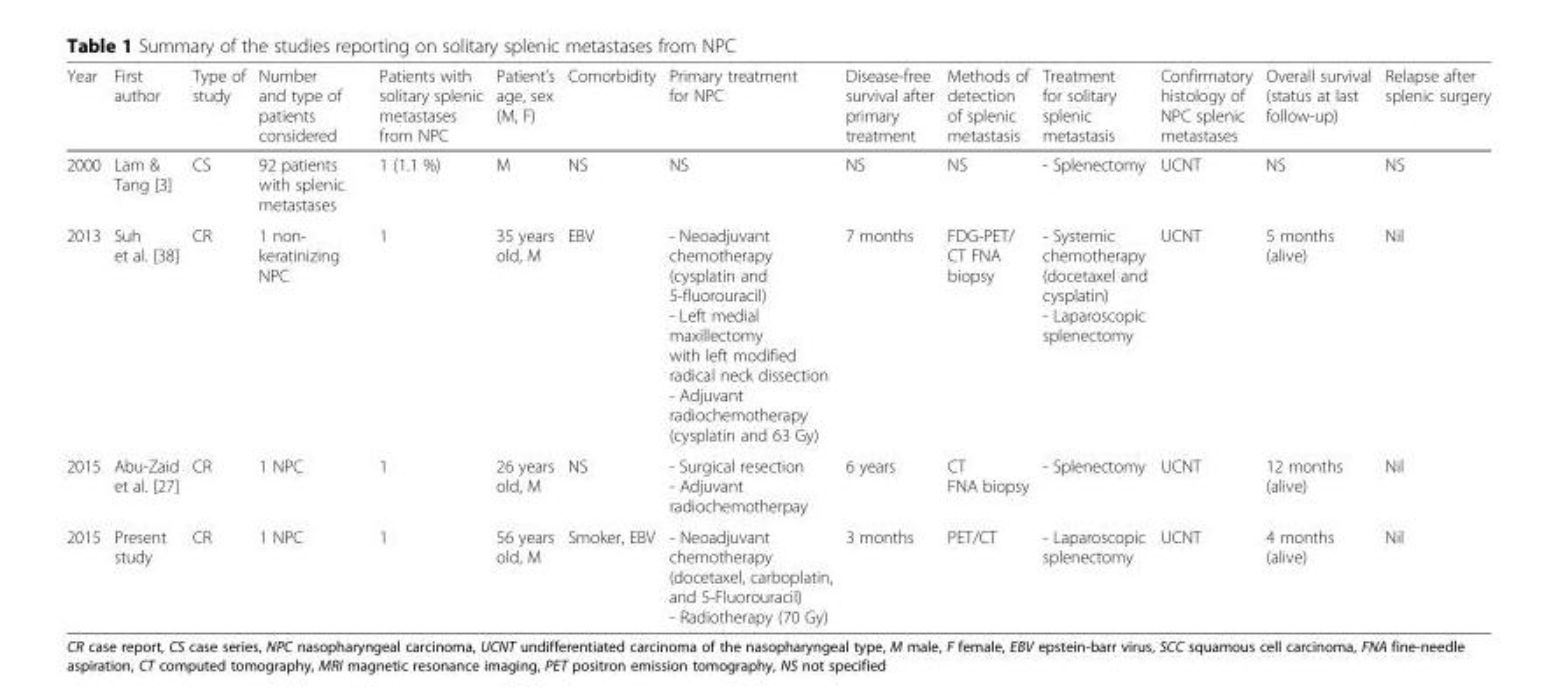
<table><thead><tr><td>Year</td><td>First author</td><td>Type of study</td><td>Number and type of patients considered</td><td>Patients with solitary splenic metastases from NPC</td><td>Patient’s age, sex (M, F)</td><td>Comorbidity</td><td>Primary treatment for NPC</td><td>Disease-free survival after primary treatment</td><td>Methods of detection of splenic metastasis</td><td>Treatment for solitary splenic metastasis</td><td>Confirmatory histology of NPC splenic metastases</td><td>Overall survival (status at last follow-up)</td><td>Relapse after splenic surgery</td></tr></thead><tbody><tr><td>2000</td><td>Lam &amp; Tang [3]</td><td>CS</td><td>92 patients with splenic metastases</td><td>1 (1.1 %)</td><td>M</td><td>NS</td><td>NS</td><td>NS</td><td>NS</td><td>- Splenectomy</td><td>UCNT</td><td>NS</td><td>NS</td></tr><tr><td>2013</td><td>Suh et al. [38]</td><td>CR</td><td>1 non- keratinizing NPC</td><td>1</td><td>35 years old, M</td><td>EBV</td><td>- Neoadjuvant chemotherapy (cysplatin and 5-fluorouracil) - Left medial maxillectomy with left modified radical neck dissection - Adjuvant radiochemotherapy (cysplatin and 63 Gy)</td><td>7 months</td><td>FDG-PET/ CT FNA biopsy</td><td>- Systemic chemotherapy (docetaxel and cysplatin) - Laparoscopic splenectomy</td><td>UCNT</td><td>5 months (alive)</td><td>Nil</td></tr><tr><td>2015</td><td>Abu-Zaid et al. [27]</td><td>CR</td><td>1 NPC</td><td>1</td><td>26 years old, M</td><td>NS</td><td>- Surgical resection - Adjuvant radiochemotherpay</td><td>6 years</td><td>CT FNA biopsy</td><td>- Splenectomy</td><td>UCNT</td><td>12 months (alive)</td><td>Nil</td></tr><tr><td>2015</td><td>Present study</td><td>CR</td><td>1 NPC</td><td>1</td><td>56 years old, M</td><td>Smoker, EBV</td><td>- Neoadjuvant chemotherapy (docetaxel, carboplatin, and 5-Fluorouracil) - Radiotherapy (70 Gy)</td><td>3 months</td><td>PET/CT</td><td>- Laparoscopic splenectomy</td><td>UCNT</td><td>4 months (alive)</td><td>Nil</td></tr></tbody></table>